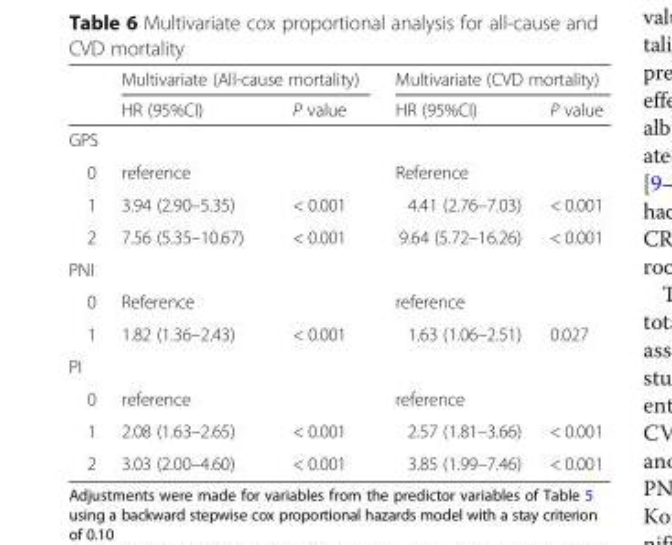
<table><thead><tr><td rowspan="2"></td><td colspan="2">Multivariate (All-cause mortality)</td><td colspan="2">Multivariate (CVD mortality)</td></tr><tr><td>HR (95%CI)</td><td>P value</td><td>HR (95%CI)</td><td>P value</td></tr></thead><tbody><tr><td colspan="5">GPS</td></tr><tr><td>0</td><td>reference</td><td></td><td>Reference</td><td></td></tr><tr><td>1</td><td>3.94 (2.90–5.35)</td><td>&lt; 0.001</td><td>4.41 (2.76–7.03)</td><td>&lt; 0.001</td></tr><tr><td>2</td><td>7.56 (5.35–10.67)</td><td>&lt; 0.001</td><td>9.64 (5.72–16.26)</td><td>&lt; 0.001</td></tr><tr><td colspan="5">PNI</td></tr><tr><td>0</td><td>Reference</td><td></td><td>reference</td><td></td></tr><tr><td>1</td><td>1.82 (1.36–2.43)</td><td>&lt; 0.001</td><td>1.63 (1.06–2.51)</td><td>0.027</td></tr><tr><td colspan="5">PI</td></tr><tr><td>0</td><td>reference</td><td></td><td>reference</td><td></td></tr><tr><td>1</td><td>2.08 (1.63–2.65)</td><td>&lt; 0.001</td><td>2.57 (1.81–3.66)</td><td>&lt; 0.001</td></tr><tr><td>2</td><td>3.03 (2.00–4.60)</td><td>&lt; 0.001</td><td>3.85 (1.99–7.46)</td><td>&lt; 0.001</td></tr></tbody></table>